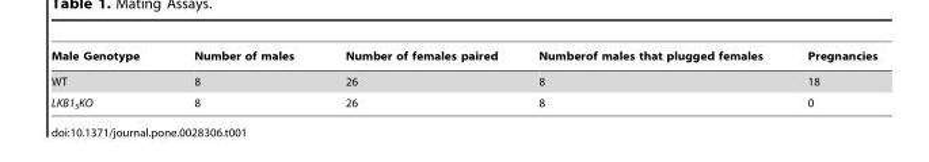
<table><thead><tr><td>Male Genotype</td><td>Number of males</td><td>Number of females paired</td><td>Numberof males that plugged females</td><td>Pregnancies</td></tr></thead><tbody><tr><td>WT</td><td>8</td><td>26</td><td>8</td><td>18</td></tr><tr><td>LKB1<sub>S</sub>KO</td><td>8</td><td>26</td><td>8</td><td>0</td></tr></tbody></table>